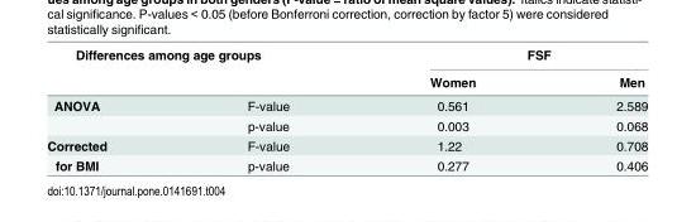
<table><thead><tr><td rowspan="2" colspan="2">Differences among age groups</td><td colspan="2">FSF</td></tr><tr><td rowspan="2">Women 0.561</td><td rowspan="2">Men 2.589</td></tr><tr><td>ANOVA</td><td>F-value</td></tr></thead><tbody><tr><td></td><td>p-value</td><td>0.003</td><td>0.068</td></tr><tr><td>Corrected</td><td>F-value</td><td>1.22</td><td>0.708</td></tr><tr><td>for BMI</td><td>p-value</td><td>0.277</td><td>0.406</td></tr></tbody></table>